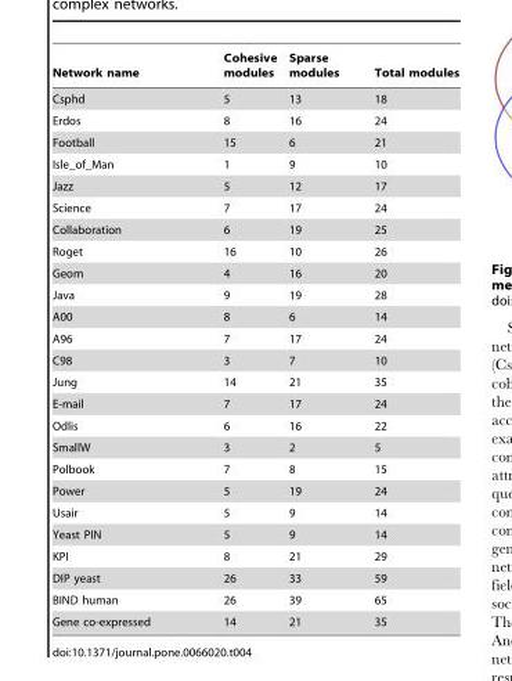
<table><thead><tr><td>Network name</td><td>Cohesive modules</td><td>Sparse modules</td><td>Total modules</td></tr></thead><tbody><tr><td>Csphd</td><td>5</td><td>13</td><td>18</td></tr><tr><td>Erdos</td><td>8</td><td>16</td><td>24</td></tr><tr><td>Football</td><td>15</td><td>6</td><td>21</td></tr><tr><td>Isle_of_Man</td><td>1</td><td>9</td><td>10</td></tr><tr><td>Jazz</td><td>5</td><td>12</td><td>17</td></tr><tr><td>Science</td><td>7</td><td>17</td><td>24</td></tr><tr><td>Collaboration</td><td>6</td><td>19</td><td>25</td></tr><tr><td>Roget</td><td>16</td><td>10</td><td>26</td></tr><tr><td>Geom</td><td>4</td><td>16</td><td>20</td></tr><tr><td>Java</td><td>9</td><td>19</td><td>28</td></tr><tr><td>A00</td><td>8</td><td>6</td><td>14</td></tr><tr><td>A96</td><td>7</td><td>17</td><td>24</td></tr><tr><td>C98</td><td>3</td><td>7</td><td>10</td></tr><tr><td>Jung</td><td>14</td><td>21</td><td>35</td></tr><tr><td>E-mail</td><td>7</td><td>17</td><td>24</td></tr><tr><td>Odlis</td><td>6</td><td>16</td><td>22</td></tr><tr><td>SmallW</td><td>3</td><td>2</td><td>5</td></tr><tr><td>Polbook</td><td>7</td><td>8</td><td>15</td></tr><tr><td>Power</td><td>5</td><td>19</td><td>24</td></tr><tr><td>Usair</td><td>5</td><td>9</td><td>14</td></tr><tr><td>Yeast PIN</td><td>5</td><td>9</td><td>14</td></tr><tr><td>KPI</td><td>8</td><td>21</td><td>29</td></tr><tr><td>DIP yeast</td><td>26</td><td>33</td><td>59</td></tr><tr><td>BIND human</td><td>26</td><td>39</td><td>65</td></tr><tr><td>Gene co-expressed</td><td>14</td><td>21</td><td>35</td></tr></tbody></table>